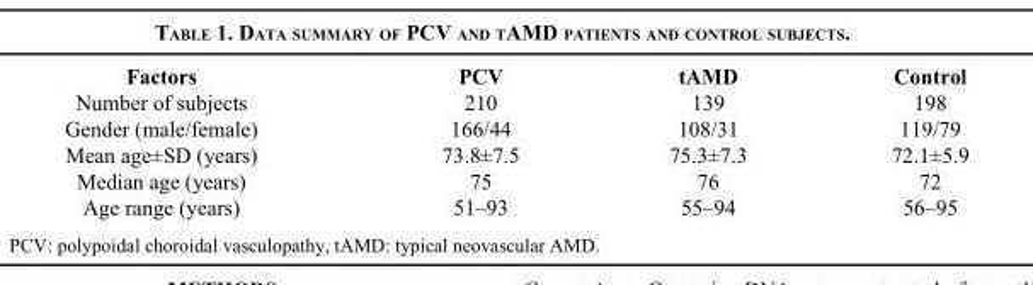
<table><thead><tr><td>Factors</td><td>PCV</td><td>tAMD</td><td>Control</td></tr></thead><tbody><tr><td>Number of subjects</td><td>210</td><td>139</td><td>198</td></tr><tr><td>Gender (male/female)</td><td>166/44</td><td>108/31</td><td>119/79</td></tr><tr><td>Mean age±SD (years)</td><td>73.8±7.5</td><td>75.3±7.3</td><td>72.1±5.9</td></tr><tr><td>Median age (years)</td><td>75</td><td>76</td><td>72</td></tr><tr><td>Age range (years)</td><td>51–93</td><td>55–94</td><td>56–95</td></tr></tbody></table>